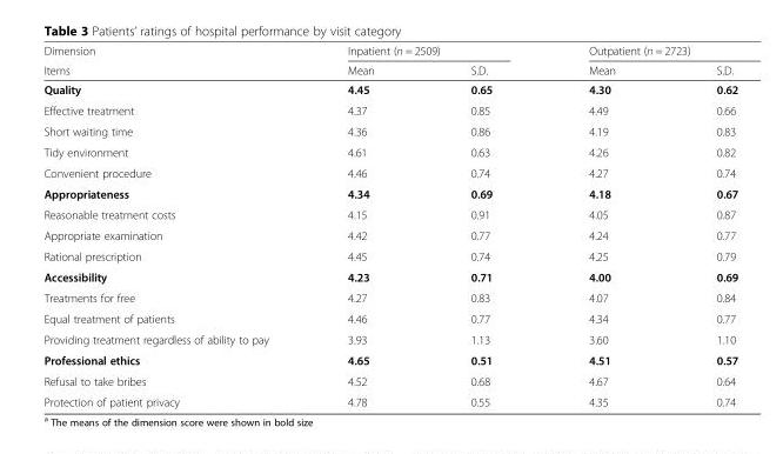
<table><thead><tr><td rowspan="2">Dimension Items</td><td colspan="2">Inpatient (n = 2509)</td><td colspan="2">Outpatient (n = 2723)</td></tr><tr><td>Mean</td><td>S.D.</td><td>Mean</td><td>S.D.</td></tr></thead><tbody><tr><td>Quality</td><td>4.45</td><td>0.65</td><td>4.30</td><td>0.62</td></tr><tr><td>Effective treatment</td><td>4.37</td><td>0.85</td><td>4.49</td><td>0.66</td></tr><tr><td>Short waiting time</td><td>4.36</td><td>0.86</td><td>4.19</td><td>0.83</td></tr><tr><td>Tidy environment</td><td>4.61</td><td>0.63</td><td>4.26</td><td>0.82</td></tr><tr><td>Convenient procedure</td><td>4.46</td><td>0.74</td><td>4.27</td><td>0.74</td></tr><tr><td>Appropriateness</td><td>4.34</td><td>0.69</td><td>4.18</td><td>0.67</td></tr><tr><td>Reasonable treatment costs</td><td>4.15</td><td>0.91</td><td>4.05</td><td>0.87</td></tr><tr><td>Appropriate examination</td><td>4.42</td><td>0.77</td><td>4.24</td><td>0.77</td></tr><tr><td>Rational prescription</td><td>4.45</td><td>0.74</td><td>4.25</td><td>0.79</td></tr><tr><td>Accessibility</td><td>4.23</td><td>0.71</td><td>4.00</td><td>0.69</td></tr><tr><td>Treatments for free</td><td>4.27</td><td>0.83</td><td>4.07</td><td>0.84</td></tr><tr><td>Equal treatment of patients</td><td>4.46</td><td>0.77</td><td>4.34</td><td>0.77</td></tr><tr><td>Providing treatment regardless of ability to pay</td><td>3.93</td><td>1.13</td><td>3.60</td><td>1.10</td></tr><tr><td>Professional ethics</td><td>4.65</td><td>0.51</td><td>4.51</td><td>0.57</td></tr><tr><td>Refusal to take bribes</td><td>4.52</td><td>0.68</td><td>4.67</td><td>0.64</td></tr><tr><td>Protection of patient privacy</td><td>4.78</td><td>0.55</td><td>4.35</td><td>0.74</td></tr></tbody></table>